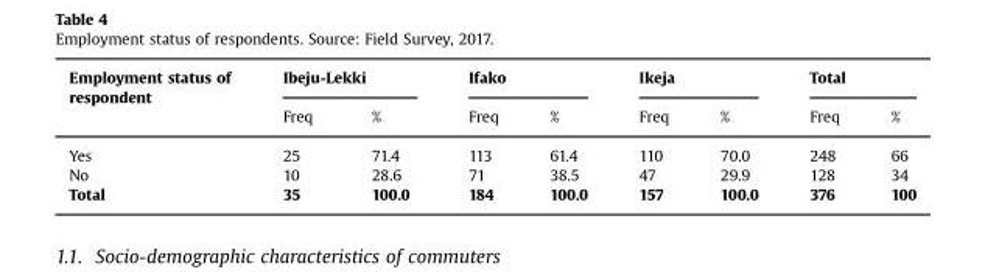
<table><thead><tr><td rowspan="2">Employment status of respondent</td><td colspan="2">Ibeju-Lekki</td><td colspan="2">Ifako</td><td colspan="2">Ikeja</td><td colspan="2">Total</td></tr><tr><td>Freq</td><td>%</td><td>Freq</td><td>%</td><td>Freq</td><td>%</td><td>Freq</td><td>%</td></tr></thead><tbody><tr><td>Yes</td><td>25</td><td>71.4</td><td>113</td><td>61.4</td><td>110</td><td>70.0</td><td>248</td><td>66</td></tr><tr><td>No</td><td>10</td><td>28.6</td><td>71</td><td>38.5</td><td>47</td><td>29.9</td><td>128</td><td>34</td></tr><tr><td>Total</td><td>35</td><td>100.0</td><td>184</td><td>100.0</td><td>157</td><td>100.0</td><td>376</td><td>100</td></tr></tbody></table>